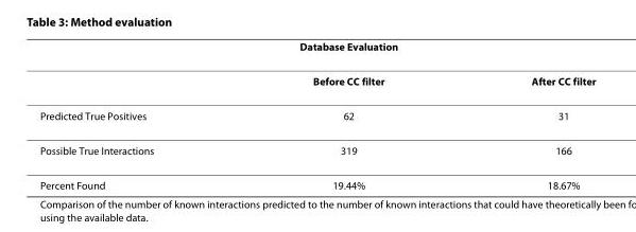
<table><thead><tr><td colspan="3">Database Evaluation</td></tr><tr><td></td><td>Before CC filter</td><td>After CC filter</td></tr></thead><tbody><tr><td>Predicted True Positives</td><td>62</td><td>31</td></tr><tr><td>Possible True Interactions</td><td>319</td><td>166</td></tr><tr><td>Percent Found</td><td>19.44%</td><td>18.67%</td></tr></tbody></table>